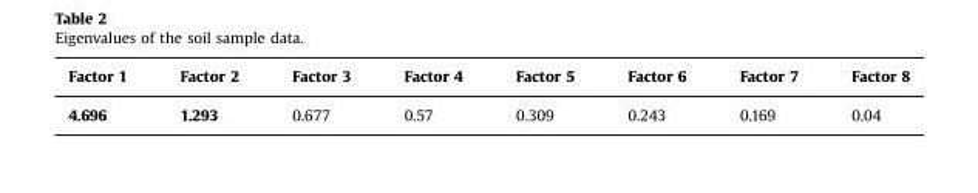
<table><thead><tr><td>Factor 1</td><td>Factor 2</td><td>Factor 3</td><td>Factor 4</td><td>Factor 5</td><td>Factor 6</td><td>Factor 7</td><td>Factor 8</td></tr></thead><tbody><tr><td>4.696</td><td>1.293</td><td>0.677</td><td>0.57</td><td>0.309</td><td>0.243</td><td>0.169</td><td>0.04</td></tr></tbody></table>